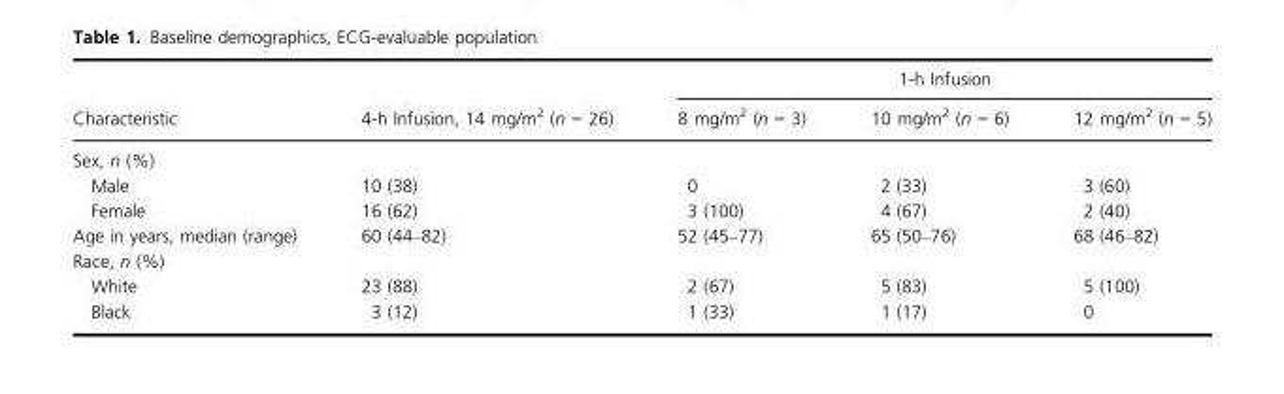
<table><thead><tr><td rowspan="2">Characteristic</td><td rowspan="2">4-h Infusion, 14 mg/m<sup>2</sup> (n = 26)</td><td colspan="3">1-h Infusion</td></tr><tr><td>8 mg/m<sup>2</sup> (n = 3)</td><td>10 mg/m<sup>2</sup> (n = 6)</td><td>12 mg/m<sup>2</sup> (n = 5)</td></tr></thead><tbody><tr><td colspan="5">Sex, n (%)</td></tr><tr><td>Male</td><td>10 (38)</td><td>0</td><td>2 (33)</td><td>3 (60)</td></tr><tr><td>Female</td><td>16 (62)</td><td>3 (100)</td><td>4 (67)</td><td>2 (40)</td></tr><tr><td>Age in years, median (range)</td><td>60 (44–82)</td><td>52 (45–77)</td><td>65 (50–76)</td><td>68 (46–82)</td></tr><tr><td colspan="5">Race, n (%)</td></tr><tr><td>White</td><td>23 (88)</td><td>2 (67)</td><td>5 (83)</td><td>5 (100)</td></tr><tr><td>Black</td><td>3 (12)</td><td>1 (33)</td><td>1 (17)</td><td>0</td></tr></tbody></table>